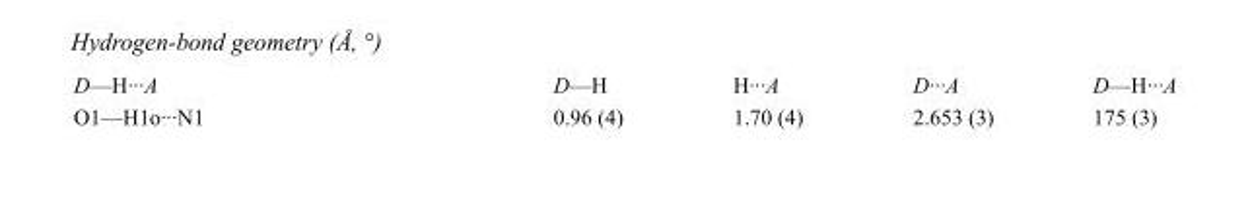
<table><tbody><tr><td>D—H···A</td><td>D—H</td><td>H···A</td><td>D···A</td><td>D—H···A</td></tr><tr><td>O1—H1o···N1</td><td>0.96 (4)</td><td>1.70 (4)</td><td>2.653 (3)</td><td>175 (3)</td></tr></tbody></table>